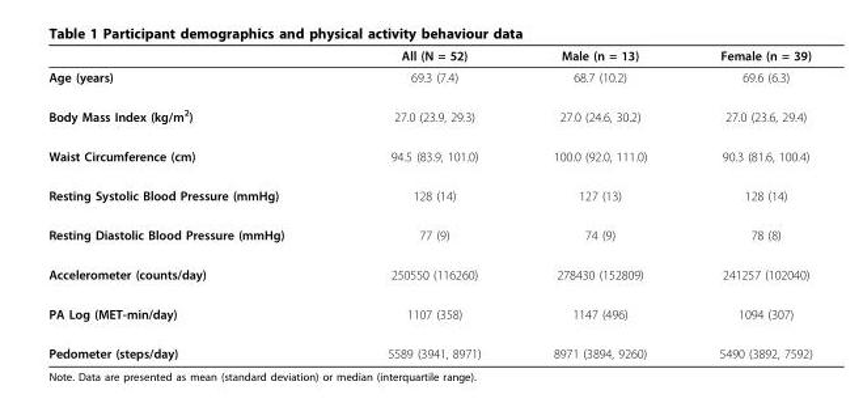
<table><thead><tr><td></td><td>All (N = 52)</td><td>Male (n = 13)</td><td>Female (n = 39)</td></tr></thead><tbody><tr><td>Age (years)</td><td>69.3 (7.4)</td><td>68.7 (10.2)</td><td>69.6 (6.3)</td></tr><tr><td>Body Mass Index (kg/m<sup>2</sup>)</td><td>27.0 (23.9, 29.3)</td><td>27.0 (24.6, 30.2)</td><td>27.0 (23.6, 29.4)</td></tr><tr><td>Waist Circumference (cm)</td><td>94.5 (83.9, 101.0)</td><td>100.0 (92.0, 111.0)</td><td>90.3 (81.6, 100.4)</td></tr><tr><td>Resting Systolic Blood Pressure (mmHg)</td><td>128 (14)</td><td>127 (13)</td><td>128 (14)</td></tr><tr><td>Resting Diastolic Blood Pressure (mmHg)</td><td>77 (9)</td><td>74 (9)</td><td>78 (8)</td></tr><tr><td>Accelerometer (counts/day)</td><td>250550 (116260)</td><td>278430 (152809)</td><td>241257 (102040)</td></tr><tr><td>PA Log (MET-min/day)</td><td>1107 (358)</td><td>1147 (496)</td><td>1094 (307)</td></tr><tr><td>Pedometer (steps/day)</td><td>5589 (3941, 8971)</td><td>8971 (3894, 9260)</td><td>5490 (3892, 7592)</td></tr></tbody></table>